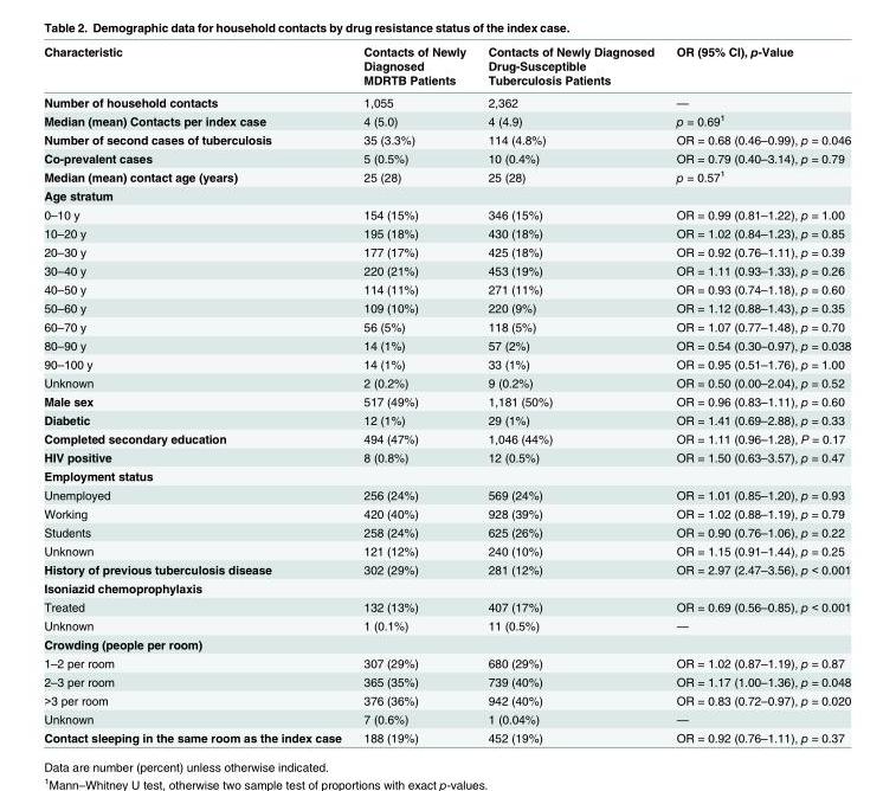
<table><thead><tr><td>Characteristic</td><td>Contacts of Newly Diagnosed MDRTB Patients</td><td>Contacts of Newly Diagnosed Drug-Susceptible Tuberculosis Patients</td><td>OR (95% CI), p-Value</td></tr></thead><tbody><tr><td>Number of household contacts</td><td>1,055</td><td>2,362</td><td>—</td></tr><tr><td>Median (mean) Contacts per index case</td><td>4 (5.0)</td><td>4 (4.9)</td><td>p = 0.69<sup>1</sup></td></tr><tr><td>Number of second cases of tuberculosis</td><td>35 (3.3%)</td><td>114 (4.8%)</td><td>OR = 0.68 (0.46–0.99), p = 0.046</td></tr><tr><td>Co-prevalent cases</td><td>5 (0.5%)</td><td>10 (0.4%)</td><td>OR = 0.79 (0.40–3.14), p = 0.79</td></tr><tr><td>Median (mean) contact age (years)</td><td>25 (28)</td><td>25 (28)</td><td>p = 0.57<sup>1</sup></td></tr><tr><td colspan="4">Age stratum</td></tr><tr><td>0–10 y</td><td>154 (15%)</td><td>346 (15%)</td><td>OR = 0.99 (0.81–1.22), p = 1.00</td></tr><tr><td>10–20 y</td><td>195 (18%)</td><td>430 (18%)</td><td>OR = 1.02 (0.84–1.23), p = 0.85</td></tr><tr><td>20–30 y</td><td>177 (17%)</td><td>425 (18%)</td><td>OR = 0.92 (0.76–1.11), p = 0.39</td></tr><tr><td>30–40 y</td><td>220 (21%)</td><td>453 (19%)</td><td>OR = 1.11 (0.93–1.33), p = 0.26</td></tr><tr><td>40–50 y</td><td>114 (11%)</td><td>271 (11%)</td><td>OR = 0.93 (0.74–1.18), p = 0.60</td></tr><tr><td>50–60 y</td><td>109 (10%)</td><td>220 (9%)</td><td>OR = 1.12 (0.88–1.43), p = 0.35</td></tr><tr><td>60–70 y</td><td>56 (5%)</td><td>118 (5%)</td><td>OR = 1.07 (0.77–1.48), p = 0.70</td></tr><tr><td>80–90 y</td><td>14 (1%)</td><td>57 (2%)</td><td>OR = 0.54 (0.30–0.97), p = 0.038</td></tr><tr><td>90–100 y</td><td>14 (1%)</td><td>33 (1%)</td><td>OR = 0.95 (0.51–1.76), p = 1.00</td></tr><tr><td>Unknown</td><td>2 (0.2%)</td><td>9 (0.2%)</td><td>OR = 0.50 (0.00–2.04), p = 0.52</td></tr><tr><td>Male sex</td><td>517 (49%)</td><td>1,181 (50%)</td><td>OR = 0.96 (0.83–1.11), p = 0.60</td></tr><tr><td>Diabetic</td><td>12 (1%)</td><td>29 (1%)</td><td>OR = 1.41 (0.69–2.88), p = 0.33</td></tr><tr><td>Completed secondary education</td><td>494 (47%)</td><td>1,046 (44%)</td><td>OR = 1.11 (0.96–1.28), P = 0.17</td></tr><tr><td>HIV positive</td><td>8 (0.8%)</td><td>12 (0.5%)</td><td>OR = 1.50 (0.63–3.57), p = 0.47</td></tr><tr><td colspan="4">Employment status</td></tr><tr><td>Unemployed</td><td>256 (24%)</td><td>569 (24%)</td><td>OR = 1.01 (0.85–1.20), p = 0.93</td></tr><tr><td>Working</td><td>420 (40%)</td><td>928 (39%)</td><td>OR = 1.02 (0.88–1.19), p = 0.79</td></tr><tr><td>Students</td><td>258 (24%)</td><td>625 (26%)</td><td>OR = 0.90 (0.76–1.06), p = 0.22</td></tr><tr><td>Unknown</td><td>121 (12%)</td><td>240 (10%)</td><td>OR = 1.15 (0.91–1.44), p = 0.25</td></tr><tr><td>History of previous tuberculosis disease</td><td>302 (29%)</td><td>281 (12%)</td><td>OR = 2.97 (2.47–3.56), p &lt; 0.001</td></tr><tr><td colspan="4">Isoniazid chemoprophylaxis</td></tr><tr><td>Treated</td><td>132 (13%)</td><td>407 (17%)</td><td>OR = 0.69 (0.56–0.85), p &lt; 0.001</td></tr><tr><td>Unknown</td><td>1 (0.1%)</td><td>11 (0.5%)</td><td>—</td></tr><tr><td colspan="4">Crowding (people per room)</td></tr><tr><td>1–2 per room</td><td>307 (29%)</td><td>680 (29%)</td><td>OR = 1.02 (0.87–1.19), p = 0.87</td></tr><tr><td>2–3 per room</td><td>365 (35%)</td><td>739 (40%)</td><td>OR = 1.17 (1.00–1.36), p = 0.048</td></tr><tr><td>&gt;3 per room</td><td>376 (36%)</td><td>942 (40%)</td><td>OR = 0.83 (0.72–0.97), p = 0.020</td></tr><tr><td>Unknown</td><td>7 (0.6%)</td><td>1 (0.04%)</td><td>—</td></tr><tr><td>Contact sleeping in the same room as the index case</td><td>188 (19%)</td><td>452 (19%)</td><td>OR = 0.92 (0.76–1.11), p = 0.37</td></tr></tbody></table>